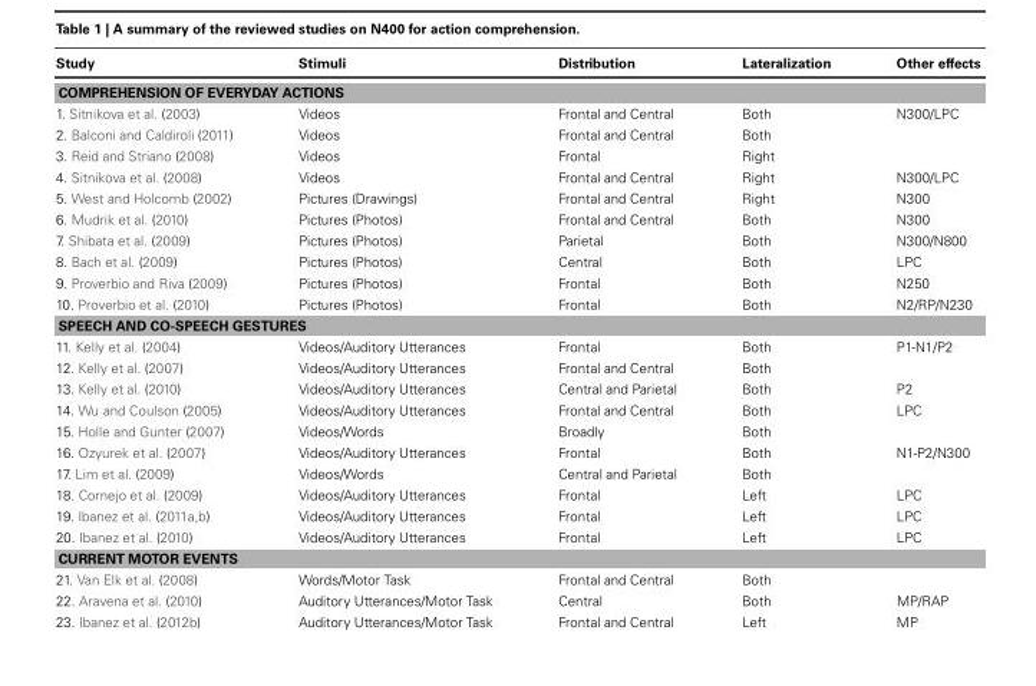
<table><thead><tr><td>Study</td><td>Stimuli</td><td>Distribution</td><td>Lateralization</td><td>Other effects</td></tr></thead><tbody><tr><td colspan="5">COMPREHENSION OF EVERYDAY ACTIONS</td></tr><tr><td>1. Sitnikova et al. (2003)</td><td>Videos</td><td>Frontal and Central</td><td>Both</td><td>N300/LPC</td></tr><tr><td>2. Balconi and Caldiroli (2011)</td><td>Videos</td><td>Frontal and Central</td><td>Both</td><td></td></tr><tr><td>3. Reid and Striano (2008)</td><td>Videos</td><td>Frontal</td><td>Right</td><td></td></tr><tr><td>4. Sitnikova et al. (2008)</td><td>Videos</td><td>Frontal and Central</td><td>Right</td><td>N300/LPC</td></tr><tr><td>5. West and Holcomb (2002)</td><td>Pictures (Drawings)</td><td>Frontal and Central</td><td>Right</td><td>N300</td></tr><tr><td>6. Mudrik et al. (2010)</td><td>Pictures (Photos)</td><td>Frontal and Central</td><td>Both</td><td>N300</td></tr><tr><td>7. Shibata et al. (2009)</td><td>Pictures (Photos)</td><td>Parietal</td><td>Both</td><td>N300/N800</td></tr><tr><td>8. Bach et al. (2009)</td><td>Pictures (Photos)</td><td>Central</td><td>Both</td><td>LPC</td></tr><tr><td>9. Proverbio and Riva (2009)</td><td>Pictures (Photos)</td><td>Frontal</td><td>Both</td><td>N250</td></tr><tr><td>10. Proverbio et al. (2010)</td><td>Pictures (Photos)</td><td>Frontal</td><td>Both</td><td>N2/RP/N230</td></tr><tr><td colspan="5">SPEECH AND CO-SPEECH GESTURES</td></tr><tr><td>11. Kelly et al. (2004)</td><td>Videos/Auditory Utterances</td><td>Frontal</td><td>Both</td><td>P1-N1/P2</td></tr><tr><td>12. Kelly et al. (2007)</td><td>Videos/Auditory Utterances</td><td>Frontal and Central</td><td>Both</td><td></td></tr><tr><td>13. Kelly et al. (2010)</td><td>Videos/Auditory Utterances</td><td>Central and Parietal</td><td>Both</td><td>P2</td></tr><tr><td>14. Wu and Coulson (2005)</td><td>Videos/Auditory Utterances</td><td>Frontal and Central</td><td>Both</td><td>LPC</td></tr><tr><td>15. Holle and Gunter (2007)</td><td>Videos/Words</td><td>Broadly</td><td>Both</td><td></td></tr><tr><td>16. Ozyurek et al. (2007)</td><td>Videos/Auditory Utterances</td><td>Frontal</td><td>Both</td><td>N1-P2/N300</td></tr><tr><td>17. Lim et al. (2009)</td><td>Videos/Words</td><td>Central and Parietal</td><td>Both</td><td></td></tr><tr><td>18. Cornejo et al. (2009)</td><td>Videos/Auditory Utterances</td><td>Frontal</td><td>Left</td><td>LPC</td></tr><tr><td>19. Ibanez et al. (2011a,b)</td><td>Videos/Auditory Utterances</td><td>Frontal</td><td>Left</td><td>LPC</td></tr><tr><td>20. Ibanez et al. (2010)</td><td>Videos/Auditory Utterances</td><td>Frontal</td><td>Left</td><td>LPC</td></tr><tr><td colspan="5">CURRENT MOTOR EVENTS</td></tr><tr><td>21. Van Elk et al. (2008)</td><td>Words/Motor Task</td><td>Frontal and Central</td><td>Both</td><td></td></tr><tr><td>22. Aravena et al. (2010)</td><td>Auditory Utterances/Motor Task</td><td>Central</td><td>Both</td><td>MP/RAP</td></tr><tr><td>23. Ibanez et al. (2012b)</td><td>Auditory Utterances/Motor Task</td><td>Frontal and Central</td><td>Left</td><td>MP</td></tr></tbody></table>